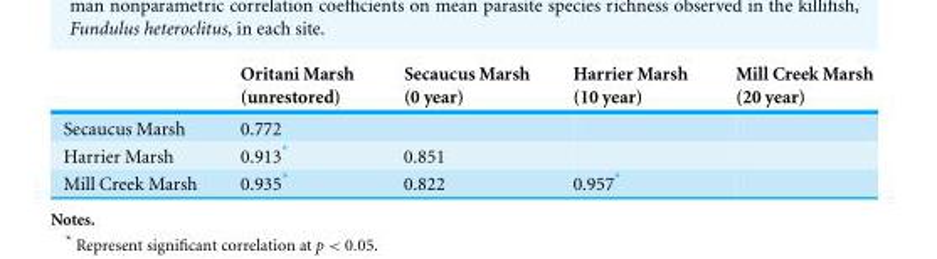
<table><thead><tr><td></td><td>Oritani Marsh (unrestored)</td><td>Secaucus Marsh (0 year)</td><td>Harrier Marsh (10 year)</td><td>Mill Creek Marsh (20 year)</td></tr></thead><tbody><tr><td>Secaucus Marsh</td><td>0.772</td><td></td><td></td><td></td></tr><tr><td>Harrier Marsh</td><td>0.913*</td><td>0.851</td><td></td><td></td></tr><tr><td>Mill Creek Marsh</td><td>0.935*</td><td>0.822</td><td>0.957*</td><td></td></tr></tbody></table>